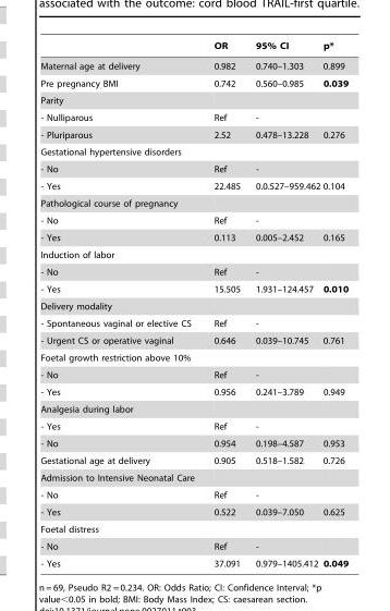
<table><thead><tr><td></td><td>OR</td><td>95% CI</td><td>p*</td></tr></thead><tbody><tr><td>Maternal age at delivery</td><td>0.982</td><td>0.740–1.303</td><td>0.899</td></tr><tr><td>Pre pregnancy BMI</td><td>0.742</td><td>0.560–0.985</td><td>0.039</td></tr><tr><td colspan="4">Parity</td></tr><tr><td>- Nulliparous</td><td>Ref</td><td>-</td><td></td></tr><tr><td>- Pluriparous</td><td>2.52</td><td>0.478–13.228</td><td>0.276</td></tr><tr><td colspan="4">Gestational hypertensive disorders</td></tr><tr><td>- No</td><td>Ref</td><td>-</td><td></td></tr><tr><td>- Yes</td><td>22.485</td><td>0.0.527–959.462</td><td>0.104</td></tr><tr><td colspan="4">Pathological course of pregnancy</td></tr><tr><td>- No</td><td>Ref</td><td>-</td><td></td></tr><tr><td>- Yes</td><td>0.113</td><td>0.005–2.452</td><td>0.165</td></tr><tr><td colspan="4">Induction of labor</td></tr><tr><td>- No</td><td>Ref</td><td>-</td><td></td></tr><tr><td>- Yes</td><td>15.505</td><td>1.931–124.457</td><td>0.010</td></tr><tr><td colspan="4">Delivery modality</td></tr><tr><td>- Spontaneous vaginal or elective CS</td><td>Ref</td><td>-</td><td></td></tr><tr><td>- Urgent CS or operative vaginal</td><td>0.646</td><td>0.039–10.745</td><td>0.761</td></tr><tr><td colspan="4">Foetal growth restriction above 10%</td></tr><tr><td>- No</td><td>Ref</td><td>-</td><td></td></tr><tr><td>- Yes</td><td>0.956</td><td>0.241–3.789</td><td>0.949</td></tr><tr><td colspan="4">Analgesia during labor</td></tr><tr><td>- Yes</td><td>Ref</td><td>-</td><td></td></tr><tr><td>- No</td><td>0.954</td><td>0.198–4.587</td><td>0.953</td></tr><tr><td>Gestational age at delivery</td><td>0.905</td><td>0.518–1.582</td><td>0.726</td></tr><tr><td colspan="4">Admission to Intensive Neonatal Care</td></tr><tr><td>- No</td><td>Ref</td><td>-</td><td></td></tr><tr><td>- Yes</td><td>0.522</td><td>0.039–7.050</td><td>0.625</td></tr><tr><td colspan="4">Foetal distress</td></tr><tr><td>- No</td><td>Ref</td><td>-</td><td></td></tr><tr><td>- Yes</td><td>37.091</td><td>0.979–1405.412</td><td>0.049</td></tr></tbody></table>